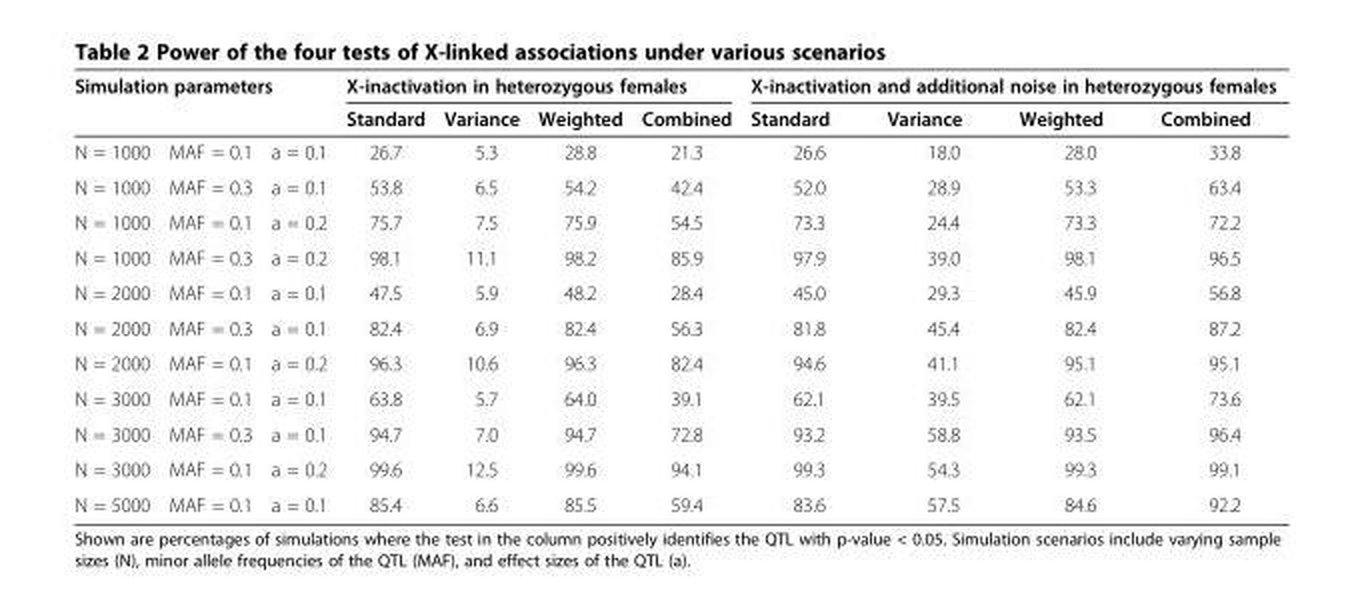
<table><thead><tr><td rowspan="2" colspan="3">Simulation parameters</td><td colspan="4">X-inactivation in heterozygous females</td><td colspan="4">X-inactivation and additional noise in heterozygous females</td></tr><tr><td rowspan="2">Standard 26.7</td><td rowspan="2">Variance 5.3</td><td rowspan="2">Weighted 28.8</td><td rowspan="2">Combined 21.3</td><td rowspan="2">Standard 26.6</td><td rowspan="2">Variance 18.0</td><td rowspan="2">Weighted 28.0</td><td rowspan="2">Combined 33.8</td></tr><tr><td>N = 1000</td><td>MAF = 0.1</td><td>a = 0.1</td></tr></thead><tbody><tr><td>N = 1000</td><td>MAF = 0.3</td><td>a = 0.1</td><td>53.8</td><td>6.5</td><td>54.2</td><td>42.4</td><td>52.0</td><td>28.9</td><td>53.3</td><td>63.4</td></tr><tr><td>N = 1000</td><td>MAF = 0.1</td><td>a = 0.2</td><td>75.7</td><td>7.5</td><td>75.9</td><td>54.5</td><td>73.3</td><td>24.4</td><td>73.3</td><td>72.2</td></tr><tr><td>N = 1000</td><td>MAF = 0.3</td><td>a = 0.2</td><td>98.1</td><td>11.1</td><td>98.2</td><td>85.9</td><td>97.9</td><td>39.0</td><td>98.1</td><td>96.5</td></tr><tr><td>N = 2000</td><td>MAF = 0.1</td><td>a = 0.1</td><td>47.5</td><td>5.9</td><td>48.2</td><td>28.4</td><td>45.0</td><td>29.3</td><td>45.9</td><td>56.8</td></tr><tr><td>N = 2000</td><td>MAF = 0.3</td><td>a = 0.1</td><td>82.4</td><td>6.9</td><td>82.4</td><td>56.3</td><td>81.8</td><td>45.4</td><td>82.4</td><td>87.2</td></tr><tr><td>N = 2000</td><td>MAF = 0.1</td><td>a = 0.2</td><td>96.3</td><td>10.6</td><td>96.3</td><td>82.4</td><td>94.6</td><td>41.1</td><td>95.1</td><td>95.1</td></tr><tr><td>N = 3000</td><td>MAF = 0.1</td><td>a = 0.1</td><td>63.8</td><td>5.7</td><td>64.0</td><td>39.1</td><td>62.1</td><td>39.5</td><td>62.1</td><td>73.6</td></tr><tr><td>N = 3000</td><td>MAF = 0.3</td><td>a = 0.1</td><td>94.7</td><td>7.0</td><td>94.7</td><td>72.8</td><td>93.2</td><td>58.8</td><td>93.5</td><td>96.4</td></tr><tr><td>N = 3000</td><td>MAF = 0.1</td><td>a = 0.2</td><td>99.6</td><td>12.5</td><td>99.6</td><td>94.1</td><td>99.3</td><td>54.3</td><td>99.3</td><td>99.1</td></tr><tr><td>N = 5000</td><td>MAF = 0.1</td><td>a = 0.1</td><td>85.4</td><td>6.6</td><td>85.5</td><td>59.4</td><td>83.6</td><td>57.5</td><td>84.6</td><td>92.2</td></tr></tbody></table>